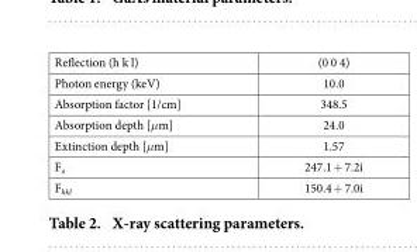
<table><tbody><tr><td>Reflection (h k l)</td><td>(0 0 4)</td></tr><tr><td>Photon energy (keV)</td><td>10.0</td></tr><tr><td>Absorption factor [1/cm]</td><td>348.5</td></tr><tr><td>Absorption depth [μm]</td><td>24.0</td></tr><tr><td>Extinction depth [μm]</td><td>1.57</td></tr><tr><td>F<sub>o</sub></td><td>247.1 + 7.2i</td></tr><tr><td>F<sub>hkl</sub></td><td>150.4 + 7.0i</td></tr></tbody></table>